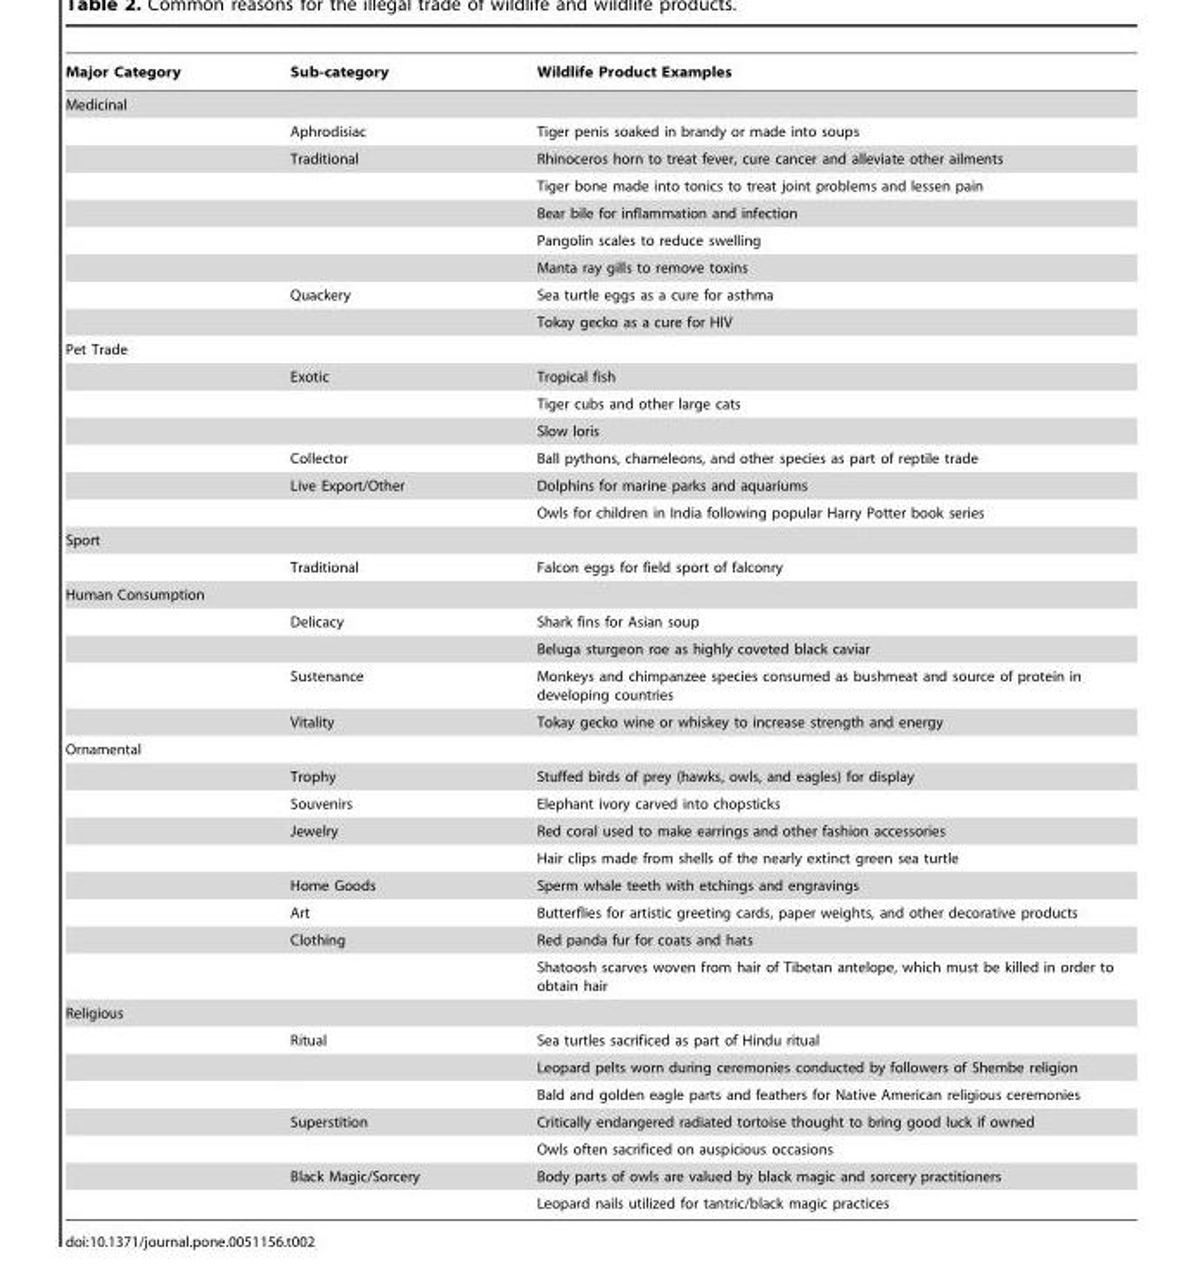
<table><thead><tr><td>Major Category</td><td>Sub-category</td><td>Wildlife Product Examples</td></tr></thead><tbody><tr><td colspan="3">Medicinal</td></tr><tr><td></td><td>Aphrodisiac</td><td>Tiger penis soaked in brandy or made into soups</td></tr><tr><td></td><td>Traditional</td><td>Rhinoceros horn to treat fever, cure cancer and alleviate other ailments</td></tr><tr><td></td><td></td><td>Tiger bone made into tonics to treat joint problems and lessen pain</td></tr><tr><td></td><td></td><td>Bear bile for inflammation and infection</td></tr><tr><td></td><td></td><td>Pangolin scales to reduce swelling</td></tr><tr><td></td><td></td><td>Manta ray gills to remove toxins</td></tr><tr><td></td><td>Quackery</td><td>Sea turtle eggs as a cure for asthma</td></tr><tr><td></td><td></td><td>Tokay gecko as a cure for HIV</td></tr><tr><td colspan="3">Pet Trade</td></tr><tr><td></td><td>Exotic</td><td>Tropical fish</td></tr><tr><td></td><td></td><td>Tiger cubs and other large cats</td></tr><tr><td></td><td></td><td>Slow loris</td></tr><tr><td></td><td>Collector</td><td>Ball pythons, chameleons, and other species as part of reptile trade</td></tr><tr><td></td><td>Live Export/Other</td><td>Dolphins for marine parks and aquariums</td></tr><tr><td></td><td></td><td>Owls for children in India following popular Harry Potter book series</td></tr><tr><td colspan="3">Sport</td></tr><tr><td></td><td>Traditional</td><td>Falcon eggs for field sport of falconry</td></tr><tr><td colspan="3">Human Consumption</td></tr><tr><td></td><td>Delicacy</td><td>Shark fins for Asian soup</td></tr><tr><td></td><td></td><td>Beluga sturgeon roe as highly coveted black caviar</td></tr><tr><td></td><td>Sustenance</td><td>Monkeys and chimpanzee species consumed as bushmeat and source of protein in developing countries</td></tr><tr><td></td><td>Vitality</td><td>Tokay gecko wine or whiskey to increase strength and energy</td></tr><tr><td colspan="3">Ornamental</td></tr><tr><td></td><td>Trophy</td><td>Stuffed birds of prey (hawks, owls, and eagles) for display</td></tr><tr><td></td><td>Souvenirs</td><td>Elephant ivory carved into chopsticks</td></tr><tr><td></td><td>Jewelry</td><td>Red coral used to make earrings and other fashion accessories</td></tr><tr><td></td><td></td><td>Hair clips made from shells of the nearly extinct green sea turtle</td></tr><tr><td></td><td>Home Goods</td><td>Sperm whale teeth with etchings and engravings</td></tr><tr><td></td><td>Art</td><td>Butterflies for artistic greeting cards, paper weights, and other decorative products</td></tr><tr><td></td><td>Clothing</td><td>Red panda fur for coats and hats</td></tr><tr><td></td><td></td><td>Shatoosh scarves woven from hair of Tibetan antelope, which must be killed in order to obtain hair</td></tr><tr><td colspan="3">Religious</td></tr><tr><td></td><td>Ritual</td><td>Sea turtles sacrificed as part of Hindu ritual</td></tr><tr><td></td><td></td><td>Leopard pelts worn during ceremonies conducted by followers of Shembe religion</td></tr><tr><td></td><td></td><td>Bald and golden eagle parts and feathers for Native American religious ceremonies</td></tr><tr><td></td><td>Superstition</td><td>Critically endangered radiated tortoise thought to bring good luck if owned</td></tr><tr><td></td><td></td><td>Owls often sacrificed on auspicious occasions</td></tr><tr><td></td><td>Black Magic/Sorcery</td><td>Body parts of owls are valued by black magic and sorcery practitioners</td></tr><tr><td></td><td></td><td>Leopard nails utilized for tantric/black magic practices</td></tr></tbody></table>